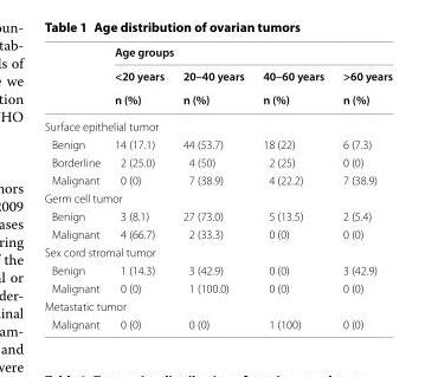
<table><thead><tr><td rowspan="3"></td><td colspan="4">Age groups</td></tr><tr><td rowspan="2">&lt;20 years n (%)</td><td rowspan="2">20–40 years n (%)</td><td rowspan="2">40–60 years n (%)</td><td rowspan="2">&gt;60 years n (%)</td></tr><tr></tr></thead><tbody><tr><td colspan="5">Surface epithelial tumor</td></tr><tr><td>Benign</td><td>14 (17.1)</td><td>44 (53.7)</td><td>18 (22)</td><td>6 (7.3)</td></tr><tr><td>Borderline</td><td>2 (25.0)</td><td>4 (50)</td><td>2 (25)</td><td>0 (0)</td></tr><tr><td>Malignant</td><td>0 (0)</td><td>7 (38.9)</td><td>4 (22.2)</td><td>7 (38.9)</td></tr><tr><td colspan="5">Germ cell tumor</td></tr><tr><td>Benign</td><td>3 (8.1)</td><td>27 (73.0)</td><td>5 (13.5)</td><td>2 (5.4)</td></tr><tr><td>Malignant</td><td>4 (66.7)</td><td>2 (33.3)</td><td>0 (0)</td><td>0 (0)</td></tr><tr><td colspan="5">Sex cord stromal tumor</td></tr><tr><td>Benign</td><td>1 (14.3)</td><td>3 (42.9)</td><td>0 (0)</td><td>3 (42.9)</td></tr><tr><td>Malignant</td><td>0 (0)</td><td>1 (100.0)</td><td>0 (0)</td><td>0 (0)</td></tr><tr><td colspan="5">Metastatic tumor</td></tr><tr><td>Malignant</td><td>0 (0)</td><td>0 (0)</td><td>1 (100)</td><td>0 (0)</td></tr></tbody></table>